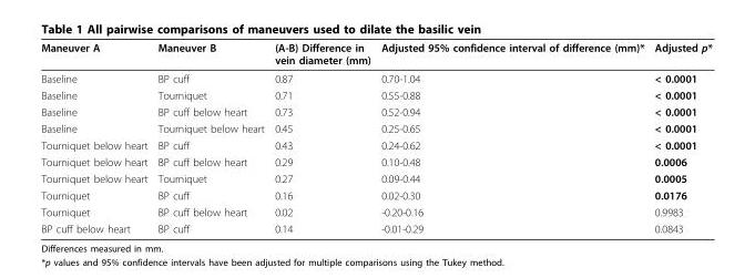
<table><thead><tr><td>Maneuver A</td><td>Maneuver B</td><td>(A-B) Difference in vein diameter (mm)</td><td>Adjusted 95% confidence interval of difference (mm)*</td><td>Adjusted p*</td></tr></thead><tbody><tr><td>Baseline</td><td>BP cuff</td><td>0.87</td><td>0.70-1.04</td><td>&lt; 0.0001</td></tr><tr><td>Baseline</td><td>Tourniquet</td><td>0.71</td><td>0.55-0.88</td><td>&lt; 0.0001</td></tr><tr><td>Baseline</td><td>BP cuff below heart</td><td>0.73</td><td>0.52-0.94</td><td>&lt; 0.0001</td></tr><tr><td>Baseline</td><td>Tourniquet below heart</td><td>0.45</td><td>0.25-0.65</td><td>&lt; 0.0001</td></tr><tr><td>Tourniquet below heart</td><td>BP cuff</td><td>0.43</td><td>0.24-0.62</td><td>&lt; 0.0001</td></tr><tr><td>Tourniquet below heart</td><td>BP cuff below heart</td><td>0.29</td><td>0.10-0.48</td><td>0.0006</td></tr><tr><td>Tourniquet below heart</td><td>Tourniquet</td><td>0.27</td><td>0.09-0.44</td><td>0.0005</td></tr><tr><td>Tourniquet</td><td>BP cuff</td><td>0.16</td><td>0.02-0.30</td><td>0.0176</td></tr><tr><td>Tourniquet</td><td>BP cuff below heart</td><td>0.02</td><td>-0.20-0.16</td><td>0.9983</td></tr><tr><td>BP cuff below heart</td><td>BP cuff</td><td>0.14</td><td>-0.01-0.29</td><td>0.0843</td></tr></tbody></table>